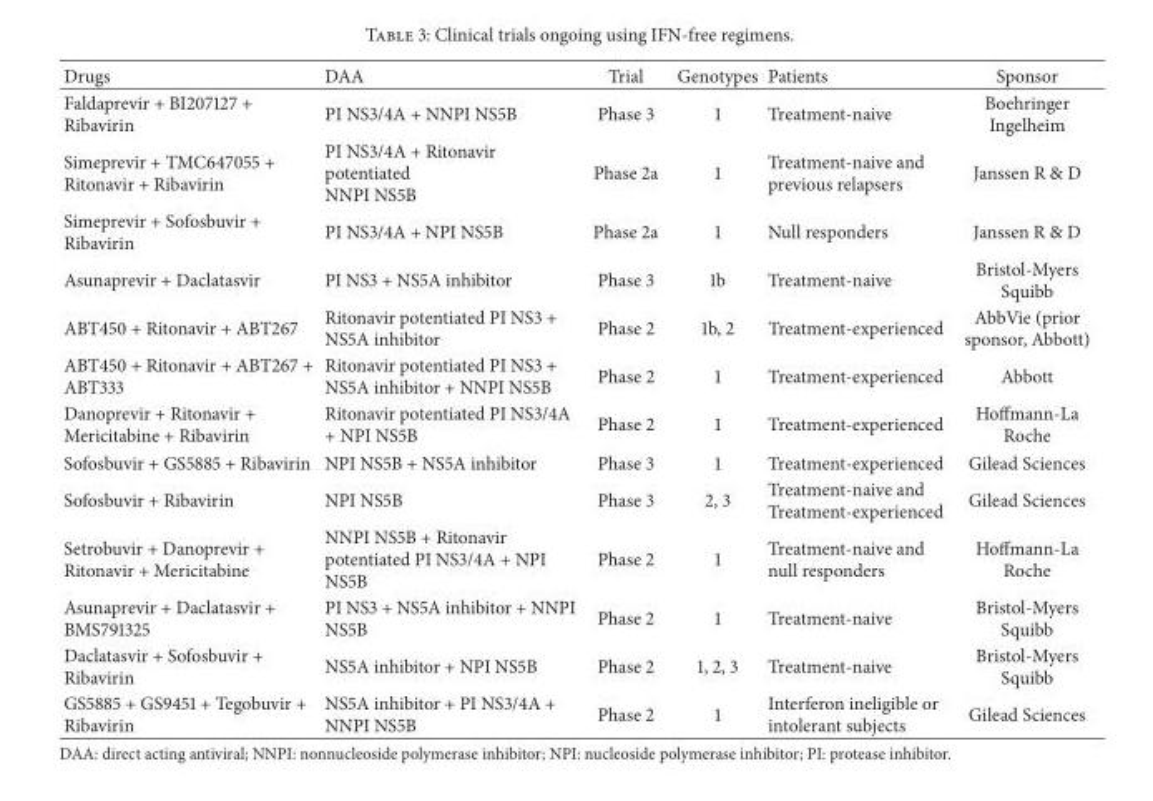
<table><thead><tr><td>Drugs</td><td>DAA</td><td>Trial</td><td>Genotypes</td><td>Patients</td><td>Sponsor</td></tr></thead><tbody><tr><td>Faldaprevir + BI207127 + Ribavirin</td><td>PI NS3/4A + NNPI NS5B</td><td>Phase 3</td><td>1</td><td>Treatment-naive</td><td>Boehringer Ingelheim</td></tr><tr><td>Simeprevir + TMC647055 + Ritonavir + Ribavirin</td><td>PI NS3/4A + Ritonavir potentiated NNPI NS5B</td><td>Phase 2a</td><td>1</td><td>Treatment-naive and previous relapsers</td><td>Janssen R &amp; D</td></tr><tr><td>Simeprevir + Sofosbuvir + Ribavirin</td><td>PI NS3/4A + NPI NS5B</td><td>Phase 2a</td><td>1</td><td>Null responders</td><td>Janssen R &amp; D</td></tr><tr><td>Asunaprevir + Daclatasvir</td><td>PI NS3 + NS5A inhibitor</td><td>Phase 3</td><td>1b</td><td>Treatment-naive</td><td>Bristol-Myers Squibb</td></tr><tr><td>ABT450 + Ritonavir + ABT267</td><td>Ritonavir potentiated PI NS3 + NS5A inhibitor</td><td>Phase 2</td><td>1b, 2</td><td>Treatment-experienced</td><td>AbbVie (prior sponsor, Abbott)</td></tr><tr><td>ABT450 + Ritonavir + ABT267 + ABT333</td><td>Ritonavir potentiated PI NS3 + NS5A inhibitor + NNPI NS5B</td><td>Phase 2</td><td>1</td><td>Treatment-experienced</td><td>Abbott</td></tr><tr><td>Danoprevir + Ritonavir + Mericitabine + Ribavirin</td><td>Ritonavir potentiated PI NS3/4A + NPI NS5B</td><td>Phase 2</td><td>1</td><td>Treatment-experienced</td><td>Hoffmann-La Roche</td></tr><tr><td>Sofosbuvir + GS5885 + Ribavirin</td><td>NPI NS5B + NS5A inhibitor</td><td>Phase 3</td><td>1</td><td>Treatment-experienced</td><td>Gilead Sciences</td></tr><tr><td>Sofosbuvir + Ribavirin</td><td>NPI NS5B</td><td>Phase 3</td><td>2, 3</td><td>Treatment-naive and Treatment-experienced</td><td>Gilead Sciences</td></tr><tr><td>Setrobuvir + Danoprevir + Ritonavir + Mericitabine</td><td>NNPI NS5B + Ritonavir potentiated PI NS3/4A + NPI NS5B</td><td>Phase 2</td><td>1</td><td>Treatment-naive and null responders</td><td>Hoffmann-La Roche</td></tr><tr><td>Asunaprevir + Daclatasvir + BMS791325</td><td>PI NS3 + NS5A inhibitor + NNPI NS5B</td><td>Phase 2</td><td>1</td><td>Treatment-naive</td><td>Bristol-Myers Squibb</td></tr><tr><td>Daclatasvir + Sofosbuvir + Ribavirin</td><td>NS5A inhibitor + NPI NS5B</td><td>Phase 2</td><td>1, 2, 3</td><td>Treatment-naive</td><td>Bristol-Myers Squibb</td></tr><tr><td>GS5885 + GS9451 + Tegobuvir + Ribavirin</td><td>NS5A inhibitor + PI NS3/4A + NNPI NS5B</td><td>Phase 2</td><td>1</td><td>Interferon ineligible or intolerant subjects</td><td>Gilead Sciences</td></tr></tbody></table>